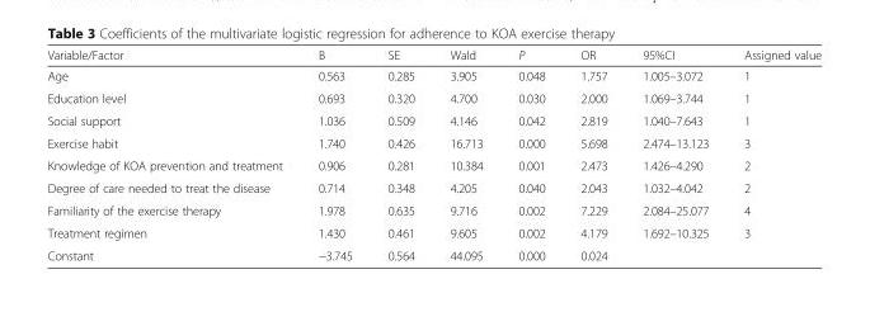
<table><thead><tr><td>Variable/Factor</td><td>B</td><td>SE</td><td>Wald</td><td>P</td><td>OR</td><td>95%CI</td><td>Assigned value</td></tr></thead><tbody><tr><td>Age</td><td>0.563</td><td>0.285</td><td>3.905</td><td>0.048</td><td>1.757</td><td>1.005–3.072</td><td>1</td></tr><tr><td>Education level</td><td>0.693</td><td>0.320</td><td>4.700</td><td>0.030</td><td>2.000</td><td>1.069–3.744</td><td>1</td></tr><tr><td>Social support</td><td>1.036</td><td>0.509</td><td>4.146</td><td>0.042</td><td>2.819</td><td>1.040–7.643</td><td>1</td></tr><tr><td>Exercise habit</td><td>1.740</td><td>0.426</td><td>16.713</td><td>0.000</td><td>5.698</td><td>2.474–13.123</td><td>3</td></tr><tr><td>Knowledge of KOA prevention and treatment</td><td>0.906</td><td>0.281</td><td>10.384</td><td>0.001</td><td>2.473</td><td>1.426–4.290</td><td>2</td></tr><tr><td>Degree of care needed to treat the disease</td><td>0.714</td><td>0.348</td><td>4.205</td><td>0.040</td><td>2.043</td><td>1.032–4.042</td><td>2</td></tr><tr><td>Familiarity of the exercise therapy</td><td>1.978</td><td>0.635</td><td>9.716</td><td>0.002</td><td>7.229</td><td>2.084–25.077</td><td>4</td></tr><tr><td>Treatment regimen</td><td>1.430</td><td>0.461</td><td>9.605</td><td>0.002</td><td>4.179</td><td>1.692–10.325</td><td>3</td></tr><tr><td>Constant</td><td>−3.745</td><td>0.564</td><td>44.095</td><td>0.000</td><td>0.024</td><td></td><td></td></tr></tbody></table>